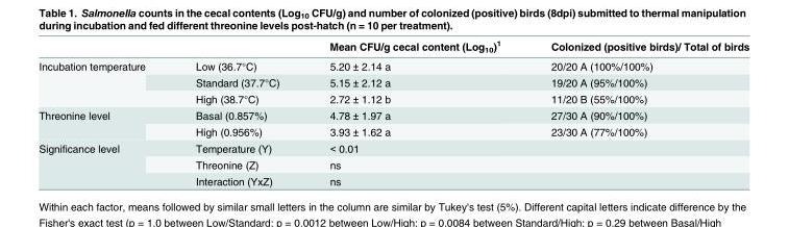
<table><thead><tr><td></td><td></td><td>Mean CFU/g cecal content (Log<sub>10</sub>)<sup>1</sup></td><td>Colonized (positive birds)/ Total of birds</td></tr></thead><tbody><tr><td rowspan="3">Incubation temperature</td><td>Low (36.7°C)</td><td>5.20 ± 2.14 a</td><td>20/20 A (100%/100%)</td></tr><tr><td>Standard (37.7°C)</td><td>5.15 ± 2.12 a</td><td>19/20 A (95%/100%)</td></tr><tr><td>High (38.7°C)</td><td>2.72 ± 1.12 b</td><td>11/20 B (55%/100%)</td></tr><tr><td rowspan="2">Threonine level</td><td>Basal (0.857%)</td><td>4.78 ± 1.97 a</td><td>27/30 A (90%/100%)</td></tr><tr><td>High (0.956%)</td><td>3.93 ± 1.62 a</td><td>23/30 A (77%/100%)</td></tr><tr><td rowspan="3">Significance level</td><td>Temperature (Y)</td><td>&lt; 0.01</td><td></td></tr><tr><td>Threonine (Z)</td><td>ns</td><td></td></tr><tr><td>Interaction (YxZ)</td><td>ns</td><td></td></tr></tbody></table>